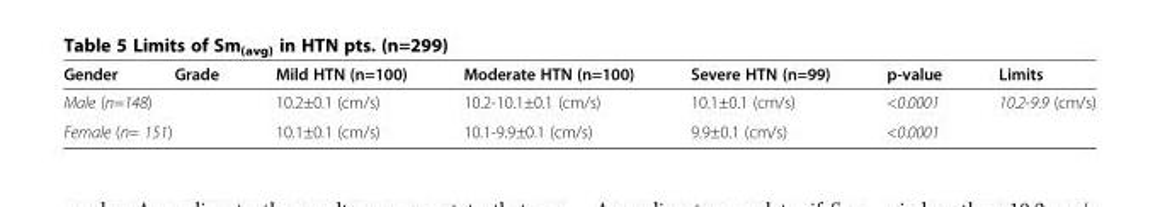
<table><thead><tr><td>Gender</td><td>Grade</td><td>Mild HTN (n=100)</td><td>Moderate HTN (n=100)</td><td>Severe HTN (n=99)</td><td>p-value</td><td>Limits</td></tr></thead><tbody><tr><td colspan="2">Male (n=148)</td><td>10.2±0.1 (cm/s)</td><td>10.2-10.1±0.1 (cm/s)</td><td>10.1±0.1 (cm/s)</td><td>&lt;0.0001</td><td rowspan="2">10.2-9.9 (cm/s)</td></tr><tr><td colspan="2">Female (n= 151)</td><td>10.1±0.1 (cm/s)</td><td>10.1-9.9±0.1 (cm/s)</td><td>9.9±0.1 (cm/s)</td><td>&lt;0.0001</td></tr></tbody></table>